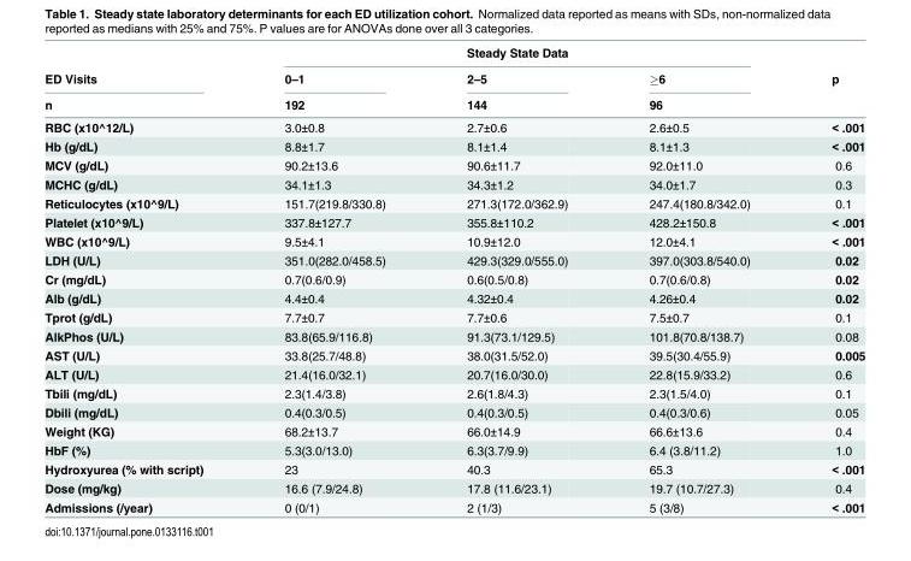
<table><thead><tr><td rowspan="3">ED Visits n</td><td colspan="3">Steady State Data</td><td rowspan="3">p</td></tr><tr><td rowspan="2">0–1 192</td><td rowspan="2">2–5 144</td><td rowspan="2">≥6 96</td></tr><tr></tr></thead><tbody><tr><td>RBC (x10^12/L)</td><td>3.0±0.8</td><td>2.7±0.6</td><td>2.6±0.5</td><td>&lt; .001</td></tr><tr><td>Hb (g/dL)</td><td>8.8±1.7</td><td>8.1±1.4</td><td>8.1±1.3</td><td>&lt; .001</td></tr><tr><td>MCV (g/dL)</td><td>90.2±13.6</td><td>90.6±11.7</td><td>92.0±11.0</td><td>0.6</td></tr><tr><td>MCHC (g/dL)</td><td>34.1±1.3</td><td>34.3±1.2</td><td>34.0±1.7</td><td>0.3</td></tr><tr><td>Reticulocytes (x10^9/L)</td><td>151.7(219.8/330.8)</td><td>271.3(172.0/362.9)</td><td>247.4(180.8/342.0)</td><td>0.1</td></tr><tr><td>Platelet (x10^9/L)</td><td>337.8±127.7</td><td>355.8±110.2</td><td>428.2±150.8</td><td>&lt; .001</td></tr><tr><td>WBC (x10^9/L)</td><td>9.5±4.1</td><td>10.9±12.0</td><td>12.0±4.1</td><td>&lt; .001</td></tr><tr><td>LDH (U/L)</td><td>351.0(282.0/458.5)</td><td>429.3(329.0/555.0)</td><td>397.0(303.8/540.0)</td><td>0.02</td></tr><tr><td>Cr (mg/dL)</td><td>0.7(0.6/0.9)</td><td>0.6(0.5/0.8)</td><td>0.7(0.6/0.8)</td><td>0.02</td></tr><tr><td>Alb (g/dL)</td><td>4.4±0.4</td><td>4.32±0.4</td><td>4.26±0.4</td><td>0.02</td></tr><tr><td>Tprot (g/dL)</td><td>7.7±0.7</td><td>7.7±0.6</td><td>7.5±0.7</td><td>0.1</td></tr><tr><td>AlkPhos (U/L)</td><td>83.8(65.9/116.8)</td><td>91.3(73.1/129.5)</td><td>101.8(70.8/138.7)</td><td>0.08</td></tr><tr><td>AST (U/L)</td><td>33.8(25.7/48.8)</td><td>38.0(31.5/52.0)</td><td>39.5(30.4/55.9)</td><td>0.005</td></tr><tr><td>ALT (U/L)</td><td>21.4(16.0/32.1)</td><td>20.7(16.0/30.0)</td><td>22.8(15.9/33.2)</td><td>0.6</td></tr><tr><td>Tbili (mg/dL)</td><td>2.3(1.4/3.8)</td><td>2.6(1.8/4.3)</td><td>2.3(1.5/4.0)</td><td>0.1</td></tr><tr><td>Dbili (mg/dL)</td><td>0.4(0.3/0.5)</td><td>0.4(0.3/0.5)</td><td>0.4(0.3/0.6)</td><td>0.05</td></tr><tr><td>Weight (KG)</td><td>68.2±13.7</td><td>66.0±14.9</td><td>66.6±13.6</td><td>0.4</td></tr><tr><td>HbF (%)</td><td>5.3(3.0/13.0)</td><td>6.3(3.7/9.9)</td><td>6.4 (3.8/11.2)</td><td>1.0</td></tr><tr><td>Hydroxyurea (% with script)</td><td>23</td><td>40.3</td><td>65.3</td><td>&lt; .001</td></tr><tr><td>Dose (mg/kg)</td><td>16.6 (7.9/24.8)</td><td>17.8 (11.6/23.1)</td><td>19.7 (10.7/27.3)</td><td>0.4</td></tr><tr><td>Admissions (/year)</td><td>0 (0/1)</td><td>2 (1/3)</td><td>5 (3/8)</td><td>&lt; .001</td></tr></tbody></table>